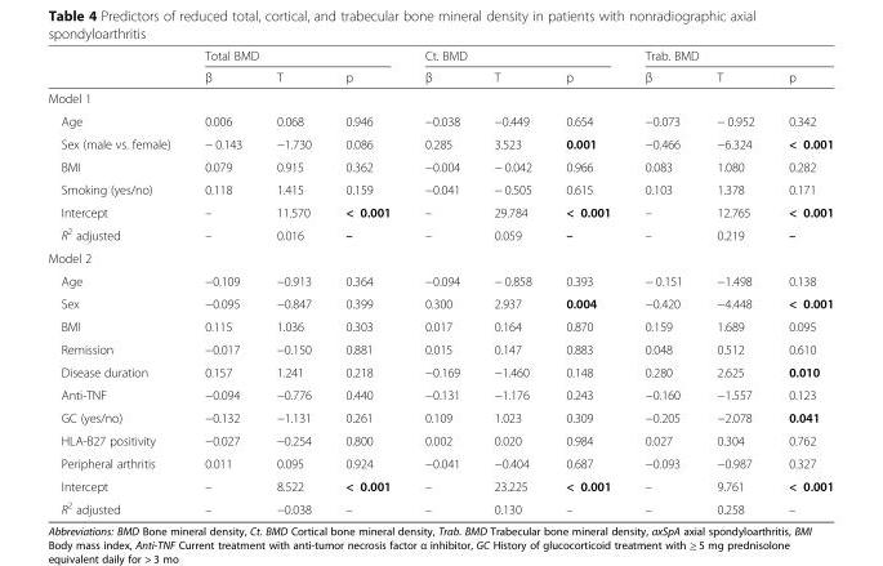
<table><thead><tr><td rowspan="2"></td><td colspan="3">Total BMD</td><td colspan="3">Ct. BMD</td><td colspan="3">Trab. BMD</td></tr><tr><td>β</td><td>T</td><td>p</td><td>β</td><td>T</td><td>p</td><td>β</td><td>T</td><td>p</td></tr></thead><tbody><tr><td colspan="10">Model 1</td></tr><tr><td>Age</td><td>0.006</td><td>0.068</td><td>0.946</td><td>−0.038</td><td>−0.449</td><td>0.654</td><td>−0.073</td><td>− 0.952</td><td>0.342</td></tr><tr><td>Sex (male vs. female)</td><td>− 0.143</td><td>−1.730</td><td>0.086</td><td>0.285</td><td>3.523</td><td>0.001</td><td>−0.466</td><td>−6.324</td><td>&lt; 0.001</td></tr><tr><td>BMI</td><td>0.079</td><td>0.915</td><td>0.362</td><td>−0.004</td><td>− 0.042</td><td>0.966</td><td>0.083</td><td>1.080</td><td>0.282</td></tr><tr><td>Smoking (yes/no)</td><td>0.118</td><td>1.415</td><td>0.159</td><td>−0.041</td><td>− 0.505</td><td>0.615</td><td>0.103</td><td>1.378</td><td>0.171</td></tr><tr><td>Intercept</td><td>–</td><td>11.570</td><td>&lt; 0.001</td><td>–</td><td>29.784</td><td>&lt; 0.001</td><td>–</td><td>12.765</td><td>&lt; 0.001</td></tr><tr><td>R<sup>2</sup> adjusted</td><td>–</td><td>0.016</td><td>–</td><td>–</td><td>0.059</td><td>–</td><td>–</td><td>0.219</td><td>–</td></tr><tr><td colspan="10">Model 2</td></tr><tr><td>Age</td><td>−0.109</td><td>−0.913</td><td>0.364</td><td>−0.094</td><td>− 0.858</td><td>0.393</td><td>− 0.151</td><td>−1.498</td><td>0.138</td></tr><tr><td>Sex</td><td>−0.095</td><td>−0.847</td><td>0.399</td><td>0.300</td><td>2.937</td><td>0.004</td><td>−0.420</td><td>−4.448</td><td>&lt; 0.001</td></tr><tr><td>BMI</td><td>0.115</td><td>1.036</td><td>0.303</td><td>0.017</td><td>0.164</td><td>0.870</td><td>0.159</td><td>1.689</td><td>0.095</td></tr><tr><td>Remission</td><td>−0.017</td><td>−0.150</td><td>0.881</td><td>0.015</td><td>0.147</td><td>0.883</td><td>0.048</td><td>0.512</td><td>0.610</td></tr><tr><td>Disease duration</td><td>0.157</td><td>1.241</td><td>0.218</td><td>−0.169</td><td>−1.460</td><td>0.148</td><td>0.280</td><td>2.625</td><td>0.010</td></tr><tr><td>Anti-TNF</td><td>−0.094</td><td>−0.776</td><td>0.440</td><td>−0.131</td><td>−1.176</td><td>0.243</td><td>−0.160</td><td>−1.557</td><td>0.123</td></tr><tr><td>GC (yes/no)</td><td>−0.132</td><td>−1.131</td><td>0.261</td><td>0.109</td><td>1.023</td><td>0.309</td><td>−0.205</td><td>−2.078</td><td>0.041</td></tr><tr><td>HLA-B27 positivity</td><td>−0.027</td><td>−0.254</td><td>0.800</td><td>0.002</td><td>0.020</td><td>0.984</td><td>0.027</td><td>0.304</td><td>0.762</td></tr><tr><td>Peripheral arthritis</td><td>0.011</td><td>0.095</td><td>0.924</td><td>−0.041</td><td>−0.404</td><td>0.687</td><td>−0.093</td><td>−0.987</td><td>0.327</td></tr><tr><td>Intercept</td><td>–</td><td>8.522</td><td>&lt; 0.001</td><td>–</td><td>23.225</td><td>&lt; 0.001</td><td>–</td><td>9.761</td><td>&lt; 0.001</td></tr><tr><td>R<sup>2</sup> adjusted</td><td>–</td><td>−0.038</td><td>–</td><td>–</td><td>0.130</td><td>–</td><td>–</td><td>0.258</td><td>–</td></tr></tbody></table>